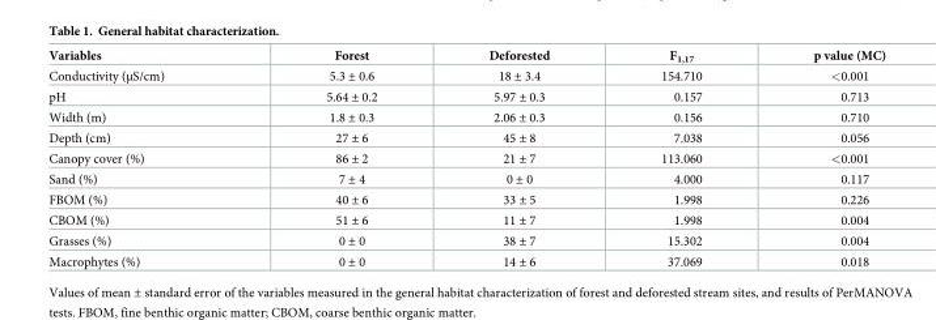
<table><thead><tr><td>Variables</td><td>Forest</td><td>Deforested</td><td>F<sub>1,17</sub></td><td>p value (MC)</td></tr></thead><tbody><tr><td>Conductivity (μS/cm)</td><td>5.3 ± 0.6</td><td>18 ± 3.4</td><td>154.710</td><td>&lt;0.001</td></tr><tr><td>pH</td><td>5.64 ± 0.2</td><td>5.97 ± 0.3</td><td>0.157</td><td>0.713</td></tr><tr><td>Width (m)</td><td>1.8 ± 0.3</td><td>2.06 ± 0.3</td><td>0.156</td><td>0.710</td></tr><tr><td>Depth (cm)</td><td>27 ± 6</td><td>45 ± 8</td><td>7.038</td><td>0.056</td></tr><tr><td>Canopy cover (%)</td><td>86 ± 2</td><td>21 ± 7</td><td>113.060</td><td>&lt;0.001</td></tr><tr><td>Sand (%)</td><td>7 ± 4</td><td>0 ± 0</td><td>4.000</td><td>0.117</td></tr><tr><td>FBOM (%)</td><td>40 ± 6</td><td>33 ± 5</td><td>1.998</td><td>0.226</td></tr><tr><td>CBOM (%)</td><td>51 ± 6</td><td>11 ± 7</td><td>1.998</td><td>0.004</td></tr><tr><td>Grasses (%)</td><td>0 ± 0</td><td>38 ± 7</td><td>15.302</td><td>0.004</td></tr><tr><td>Macrophytes (%)</td><td>0 ± 0</td><td>14 ± 6</td><td>37.069</td><td>0.018</td></tr></tbody></table>